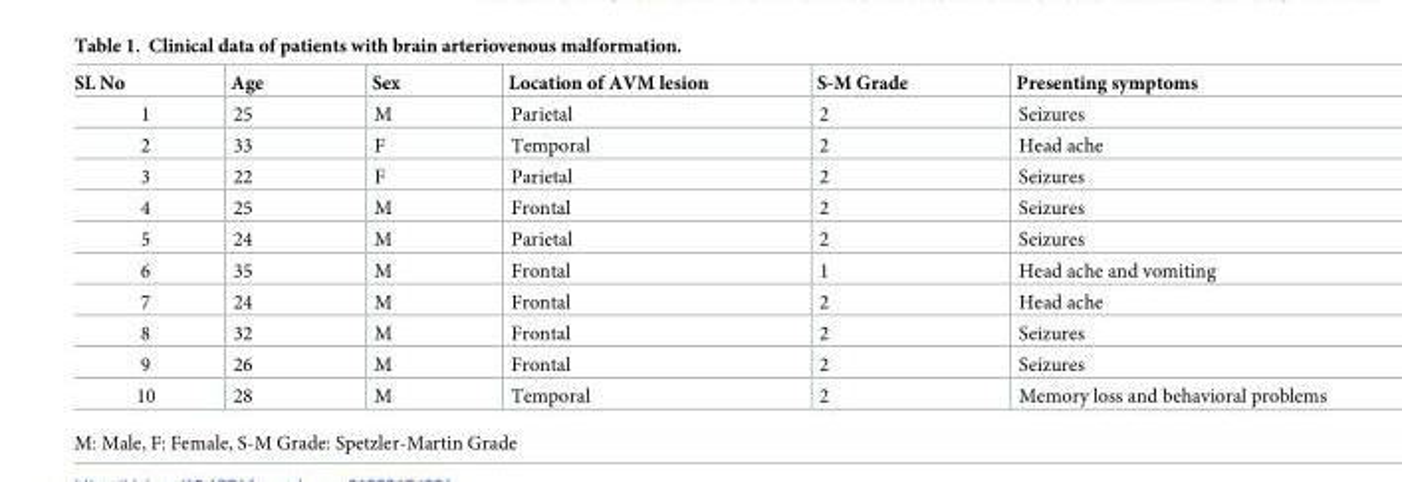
<table><thead><tr><td>SL No</td><td>Age</td><td>Sex</td><td>Location of AVM lesion</td><td>S-M Grade</td><td>Presenting symptoms</td></tr></thead><tbody><tr><td>1</td><td>25</td><td>M</td><td>Parietal</td><td>2</td><td>Seizures</td></tr><tr><td>2</td><td>33</td><td>F</td><td>Temporal</td><td>2</td><td>Head ache</td></tr><tr><td>3</td><td>22</td><td>F</td><td>Parietal</td><td>2</td><td>Seizures</td></tr><tr><td>4</td><td>25</td><td>M</td><td>Frontal</td><td>2</td><td>Seizures</td></tr><tr><td>5</td><td>24</td><td>M</td><td>Parietal</td><td>2</td><td>Seizures</td></tr><tr><td>6</td><td>35</td><td>M</td><td>Frontal</td><td>1</td><td>Head ache and vomiting</td></tr><tr><td>7</td><td>24</td><td>M</td><td>Frontal</td><td>2</td><td>Head ache</td></tr><tr><td>8</td><td>32</td><td>M</td><td>Frontal</td><td>2</td><td>Seizures</td></tr><tr><td>9</td><td>26</td><td>M</td><td>Frontal</td><td>2</td><td>Seizures</td></tr><tr><td>10</td><td>28</td><td>M</td><td>Temporal</td><td>2</td><td>Memory loss and behavioral problems</td></tr></tbody></table>